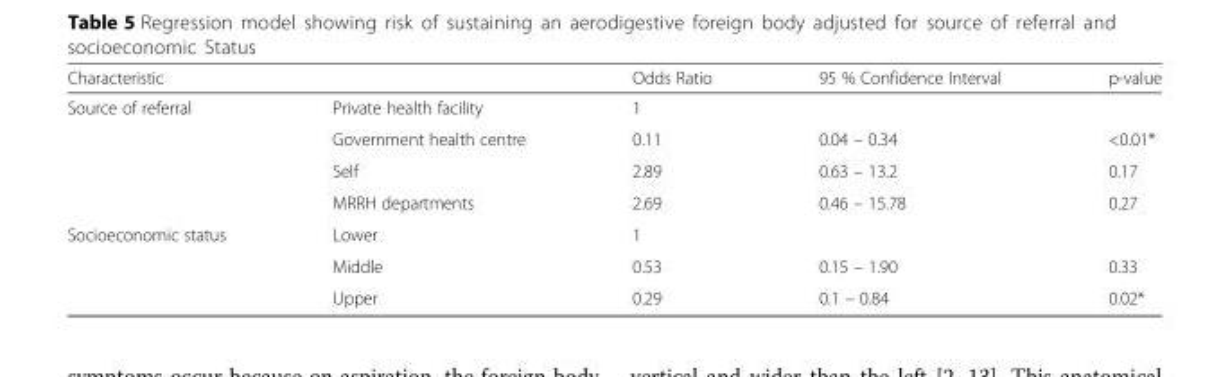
<table><thead><tr><td colspan="2">Characteristic</td><td rowspan="2">Odds Ratio 1</td><td rowspan="2">95 % Confidence Interval</td><td rowspan="2">p-value</td></tr><tr><td>Source of referral</td><td>Private health facility</td></tr></thead><tbody><tr><td></td><td>Government health centre</td><td>0.11</td><td>0.04 – 0.34</td><td>&lt;0.01*</td></tr><tr><td></td><td>Self</td><td>2.89</td><td>0.63 – 13.2</td><td>0.17</td></tr><tr><td></td><td>MRRH departments</td><td>2.69</td><td>0.46 – 15.78</td><td>0.27</td></tr><tr><td rowspan="3">Socioeconomic status</td><td>Lower</td><td>1</td><td></td><td></td></tr><tr><td>Middle</td><td>0.53</td><td>0.15 – 1.90</td><td>0.33</td></tr><tr><td>Upper</td><td>0.29</td><td>0.1 – 0.84</td><td>0.02*</td></tr></tbody></table>